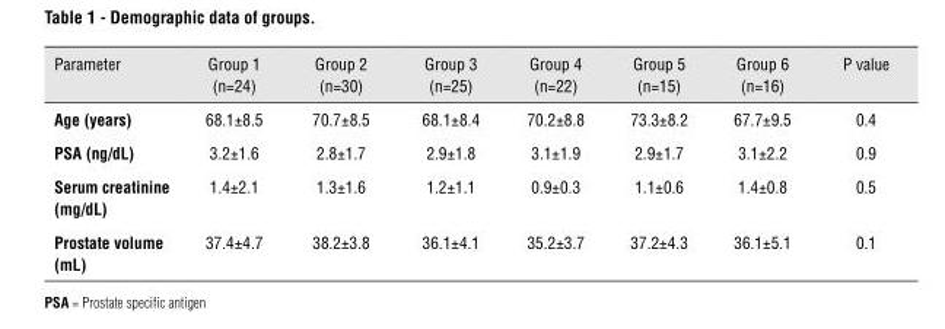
<table><thead><tr><td>Parameter</td><td>Group 1 (n=24)</td><td>Group 2 (n=30)</td><td>Group 3 (n=25)</td><td>Group 4 (n=22)</td><td>Group 5 (n=15)</td><td>Group 6 (n=16)</td><td>P value</td></tr></thead><tbody><tr><td>Age (years)</td><td>68.1±8.5</td><td>70.7±8.5</td><td>68.1±8.4</td><td>70.2±8.8</td><td>73.3±8.2</td><td>67.7±9.5</td><td>0.4</td></tr><tr><td>pSA (ng/dL)</td><td>3.2±1.6</td><td>2.8±1.7</td><td>2.9±1.8</td><td>3.1±1.9</td><td>2.9±1.7</td><td>3.1±2.2</td><td>0.9</td></tr><tr><td>Serum creatinine (mg/dL)</td><td>1.4±2.1</td><td>1.3±1.6</td><td>1.2±1.1</td><td>0.9±0.3</td><td>1.1±0.6</td><td>1.4±0.8</td><td>0.5</td></tr><tr><td>prostate volume (mL)</td><td>37.4±4.7</td><td>38.2±3.8</td><td>36.1±4.1</td><td>35.2±3.7</td><td>37.2±4.3</td><td>36.1±5.1</td><td>0.1</td></tr></tbody></table>